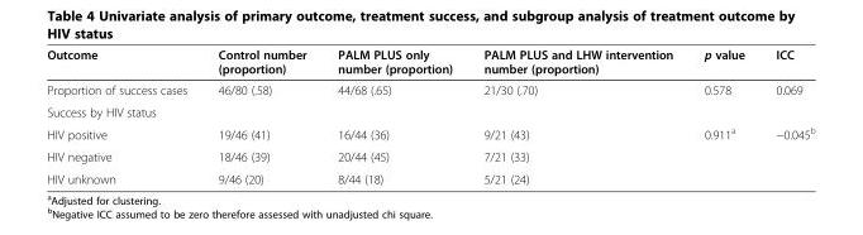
<table><thead><tr><td>Outcome</td><td>Control number (proportion)</td><td>PALM PLUS only number (proportion)</td><td>PALM PLUS and LHW intervention number (proportion)</td><td>p value</td><td>ICC</td></tr></thead><tbody><tr><td>Proportion of success cases</td><td>46/80 (.58)</td><td>44/68 (.65)</td><td>21/30 (.70)</td><td>0.578</td><td>0.069</td></tr><tr><td colspan="6">Success by HIV status</td></tr><tr><td>HIV positive</td><td>19/46 (41)</td><td>16/44 (36)</td><td>9/21 (43)</td><td rowspan="3">0.911<sup>a</sup></td><td rowspan="3">−0.045<sup>b</sup></td></tr><tr><td>HIV negative</td><td>18/46 (39)</td><td>20/44 (45)</td><td>7/21 (33)</td></tr><tr><td>HIV unknown</td><td>9/46 (20)</td><td>8/44 (18)</td><td>5/21 (24)</td></tr></tbody></table>